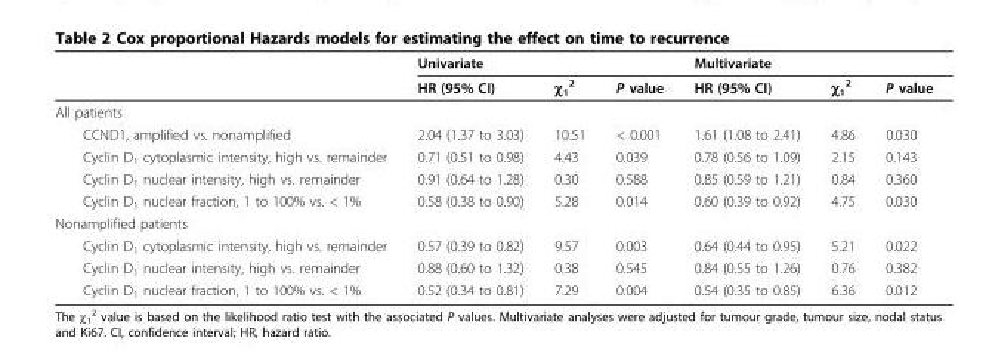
<table><thead><tr><td rowspan="2"></td><td rowspan="2">Univariate HR (95% CI)</td><td rowspan="2">χ<sub>1</sub> <sup>2</sup></td><td rowspan="2">P value</td><td rowspan="2">Multivariate HR (95% CI)</td><td rowspan="2">χ<sub>1</sub> <sup>2</sup></td><td rowspan="2">P value</td></tr><tr></tr></thead><tbody><tr><td colspan="7">All patients</td></tr><tr><td>CCND1, amplified vs. nonamplified</td><td>2.04 (1.37 to 3.03)</td><td>10.51</td><td>&lt; 0.001</td><td>1.61 (1.08 to 2.41)</td><td>4.86</td><td>0.030</td></tr><tr><td>Cyclin D<sub>1</sub> cytoplasmic intensity, high vs. remainder</td><td>0.71 (0.51 to 0.98)</td><td>4.43</td><td>0.039</td><td>0.78 (0.56 to 1.09)</td><td>2.15</td><td>0.143</td></tr><tr><td>Cyclin D<sub>1</sub> nuclear intensity, high vs. remainder</td><td>0.91 (0.64 to 1.28)</td><td>0.30</td><td>0.588</td><td>0.85 (0.59 to 1.21)</td><td>0.84</td><td>0.360</td></tr><tr><td>Cyclin D<sub>1</sub> nuclear fraction, 1 to 100% vs. &lt; 1%</td><td>0.58 (0.38 to 0.90)</td><td>5.28</td><td>0.014</td><td>0.60 (0.39 to 0.92)</td><td>4.75</td><td>0.030</td></tr><tr><td colspan="7">Nonamplified patients</td></tr><tr><td>Cyclin D<sub>1</sub> cytoplasmic intensity, high vs. remainder</td><td>0.57 (0.39 to 0.82)</td><td>9.57</td><td>0.003</td><td>0.64 (0.44 to 0.95)</td><td>5.21</td><td>0.022</td></tr><tr><td>Cyclin D<sub>1</sub> nuclear intensity, high vs. remainder</td><td>0.88 (0.60 to 1.32)</td><td>0.38</td><td>0.545</td><td>0.84 (0.55 to 1.26)</td><td>0.76</td><td>0.382</td></tr><tr><td>Cyclin D<sub>1</sub> nuclear fraction, 1 to 100% vs. &lt; 1%</td><td>0.52 (0.34 to 0.81)</td><td>7.29</td><td>0.004</td><td>0.54 (0.35 to 0.85)</td><td>6.36</td><td>0.012</td></tr></tbody></table>